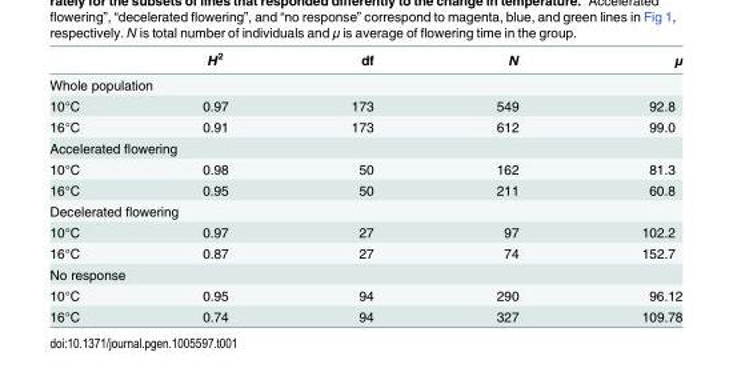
<table><thead><tr><td></td><td>H<sup>2</sup></td><td>df</td><td>N</td><td>μ</td></tr></thead><tbody><tr><td colspan="5">Whole population</td></tr><tr><td>10°C</td><td>0.97</td><td>173</td><td>549</td><td>92.8</td></tr><tr><td>16°C</td><td>0.91</td><td>173</td><td>612</td><td>99.0</td></tr><tr><td colspan="5">Accelerated flowering</td></tr><tr><td>10°C</td><td>0.98</td><td>50</td><td>162</td><td>81.3</td></tr><tr><td>16°C</td><td>0.95</td><td>50</td><td>211</td><td>60.8</td></tr><tr><td colspan="5">Decelerated flowering</td></tr><tr><td>10°C</td><td>0.97</td><td>27</td><td>97</td><td>102.2</td></tr><tr><td>16°C</td><td>0.87</td><td>27</td><td>74</td><td>152.7</td></tr><tr><td colspan="5">No response</td></tr><tr><td>10°C</td><td>0.95</td><td>94</td><td>290</td><td>96.12</td></tr><tr><td>16°C</td><td>0.74</td><td>94</td><td>327</td><td>109.78</td></tr></tbody></table>